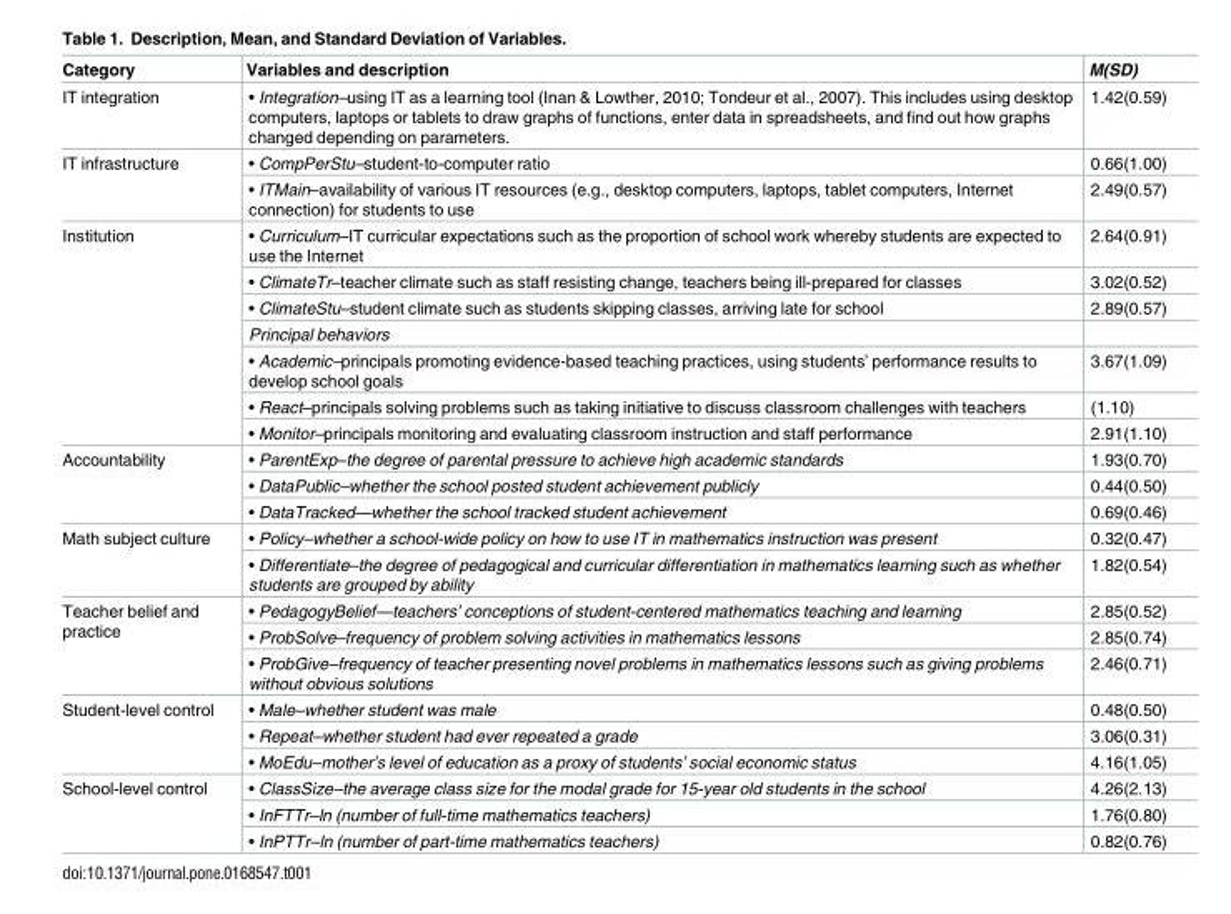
<table><thead><tr><td>Category</td><td>Variables and description</td><td>M(SD)</td></tr></thead><tbody><tr><td>IT integration</td><td>• Integration–using IT as a learning tool (Inan &amp; Lowther, 2010; Tondeur et al., 2007). This includes using desktop computers, laptops or tablets to draw graphs of functions, enter data in spreadsheets, and find out how graphs changed depending on parameters.</td><td>1.42(0.59)</td></tr><tr><td rowspan="2">IT infrastructure</td><td>• CompPerStu–student-to-computer ratio</td><td>0.66(1.00)</td></tr><tr><td>• ITMain–availability of various IT resources (e.g., desktop computers, laptops, tablet computers, Internet connection) for students to use</td><td>2.49(0.57)</td></tr><tr><td rowspan="7">Institution</td><td>• Curriculum–IT curricular expectations such as the proportion of school work whereby students are expected to use the Internet</td><td>2.64(0.91)</td></tr><tr><td>• ClimateTr–teacher climate such as staff resisting change, teachers being ill-prepared for classes</td><td>3.02(0.52)</td></tr><tr><td>• ClimateStu–student climate such as students skipping classes, arriving late for school</td><td>2.89(0.57)</td></tr><tr><td>Principal behaviors</td><td></td></tr><tr><td>• Academic–principals promoting evidence-based teaching practices, using students’ performance results to develop school goals</td><td>3.67(1.09)</td></tr><tr><td>• React–principals solving problems such as taking initiative to discuss classroom challenges with teachers</td><td>(1.10)</td></tr><tr><td>• Monitor–principals monitoring and evaluating classroom instruction and staff performance</td><td>2.91(1.10)</td></tr><tr><td rowspan="3">Accountability</td><td>• ParentExp–the degree of parental pressure to achieve high academic standards</td><td>1.93(0.70)</td></tr><tr><td>• DataPublic–whether the school posted student achievement publicly</td><td>0.44(0.50)</td></tr><tr><td>• DataTracked—whether the school tracked student achievement</td><td>0.69(0.46)</td></tr><tr><td rowspan="2">Math subject culture</td><td>• Policy–whether a school-wide policy on how to use IT in mathematics instruction was present</td><td>0.32(0.47)</td></tr><tr><td>• Differentiate–the degree of pedagogical and curricular differentiation in mathematics learning such as whether students are grouped by ability</td><td>1.82(0.54)</td></tr><tr><td rowspan="3">Teacher belief and practice</td><td>• PedagogyBelief—teachers’ conceptions of student-centered mathematics teaching and learning</td><td>2.85(0.52)</td></tr><tr><td>• ProbSolve–frequency of problem solving activities in mathematics lessons</td><td>2.85(0.74)</td></tr><tr><td>• ProbGive–frequency of teacher presenting novel problems in mathematics lessons such as giving problems without obvious solutions</td><td>2.46(0.71)</td></tr><tr><td rowspan="3">Student-level control</td><td>• Male–whether student was male</td><td>0.48(0.50)</td></tr><tr><td>• Repeat–whether student had ever repeated a grade</td><td>3.06(0.31)</td></tr><tr><td>• MoEdu–mother’s level of education as a proxy of students’ social economic status</td><td>4.16(1.05)</td></tr><tr><td rowspan="3">School-level control</td><td>• ClassSize–the average class size for the modal grade for 15-year old students in the school</td><td>4.26(2.13)</td></tr><tr><td>• InFTTr–ln (number of full-time mathematics teachers)</td><td>1.76(0.80)</td></tr><tr><td>• InPTTr–ln (number of part-time mathematics teachers)</td><td>0.82(0.76)</td></tr></tbody></table>